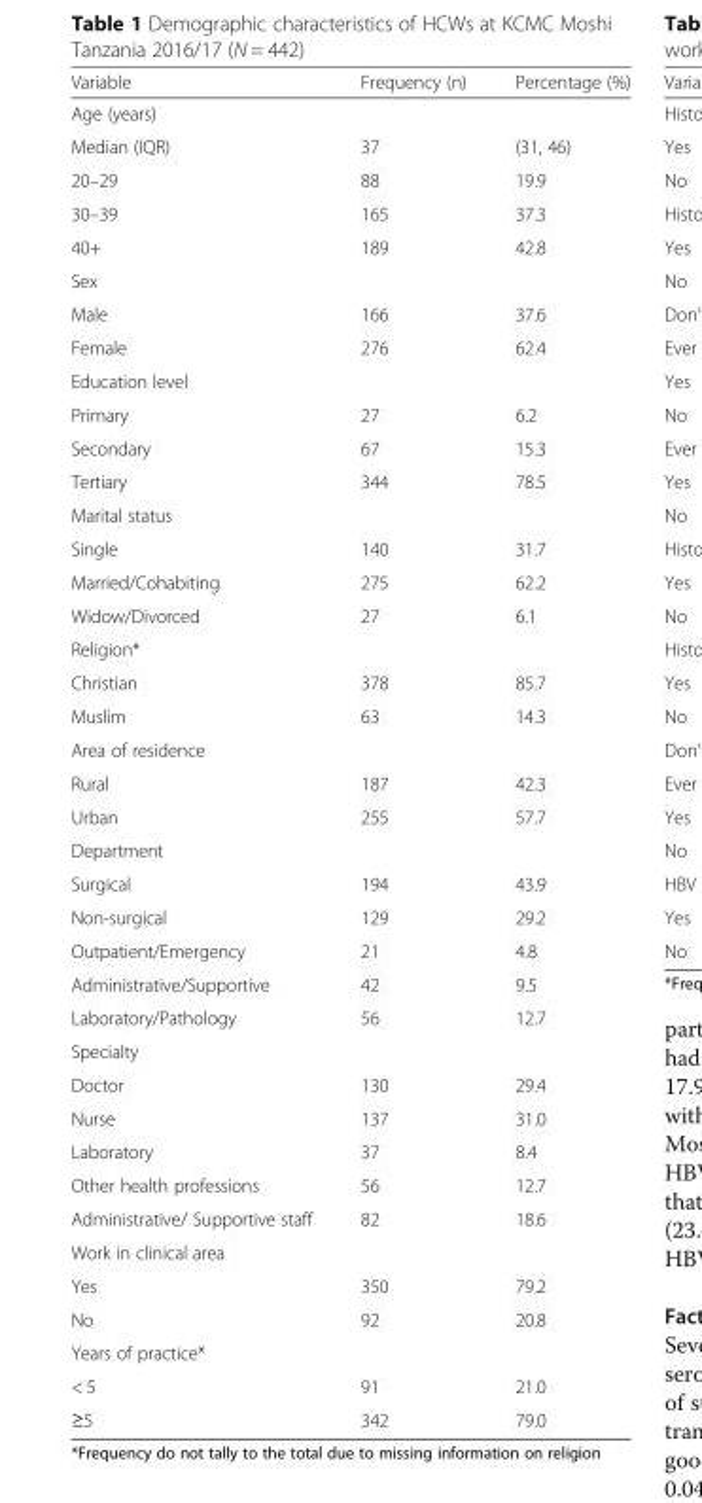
<table><thead><tr><td>Variable</td><td>Frequency (n)</td><td>Percentage (%)</td></tr></thead><tbody><tr><td colspan="3">Age (years)</td></tr><tr><td>Median (IQR)</td><td>37</td><td>(31, 46)</td></tr><tr><td>20–29</td><td>88</td><td>19.9</td></tr><tr><td>30–39</td><td>165</td><td>37.3</td></tr><tr><td>40+</td><td>189</td><td>42.8</td></tr><tr><td colspan="3">Sex</td></tr><tr><td>Male</td><td>166</td><td>37.6</td></tr><tr><td>Female</td><td>276</td><td>62.4</td></tr><tr><td colspan="3">Education level</td></tr><tr><td>Primary</td><td>27</td><td>6.2</td></tr><tr><td>Secondary</td><td>67</td><td>15.3</td></tr><tr><td>Tertiary</td><td>344</td><td>78.5</td></tr><tr><td colspan="3">Marital status</td></tr><tr><td>Single</td><td>140</td><td>31.7</td></tr><tr><td>Married/Cohabiting</td><td>275</td><td>62.2</td></tr><tr><td>Widow/Divorced</td><td>27</td><td>6.1</td></tr><tr><td colspan="3">Religion*</td></tr><tr><td>Christian</td><td>378</td><td>85.7</td></tr><tr><td>Muslim</td><td>63</td><td>14.3</td></tr><tr><td colspan="3">Area of residence</td></tr><tr><td>Rural</td><td>187</td><td>42.3</td></tr><tr><td>Urban</td><td>255</td><td>57.7</td></tr><tr><td colspan="3">Department</td></tr><tr><td>Surgical</td><td>194</td><td>43.9</td></tr><tr><td>Non-surgical</td><td>129</td><td>29.2</td></tr><tr><td>Outpatient/Emergency</td><td>21</td><td>4.8</td></tr><tr><td>Administrative/Supportive</td><td>42</td><td>9.5</td></tr><tr><td>Laboratory/Pathology</td><td>56</td><td>12.7</td></tr><tr><td colspan="3">Specialty</td></tr><tr><td>Doctor</td><td>130</td><td>29.4</td></tr><tr><td>Nurse</td><td>137</td><td>31.0</td></tr><tr><td>Laboratory</td><td>37</td><td>8.4</td></tr><tr><td>Other health professions</td><td>56</td><td>12.7</td></tr><tr><td>Administrative/ Supportive staff</td><td>82</td><td>18.6</td></tr><tr><td colspan="3">Work in clinical area</td></tr><tr><td>Yes</td><td>350</td><td>79.2</td></tr><tr><td>No</td><td>92</td><td>20.8</td></tr><tr><td colspan="3">Years of practice*</td></tr><tr><td>&lt; 5</td><td>91</td><td>21.0</td></tr><tr><td>≥5</td><td>342</td><td>79.0</td></tr></tbody></table>